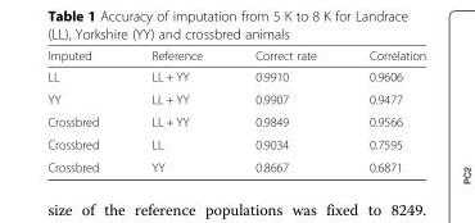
<table><thead><tr><td>Imputed</td><td>Reference</td><td>Correct rate</td><td>Correlation</td></tr></thead><tbody><tr><td>LL</td><td>LL + YY</td><td>0.9910</td><td>0.9606</td></tr><tr><td>YY</td><td>LL + YY</td><td>0.9907</td><td>0.9477</td></tr><tr><td>Crossbred</td><td>LL + YY</td><td>0.9849</td><td>0.9566</td></tr><tr><td>Crossbred</td><td>LL</td><td>0.9034</td><td>0.7595</td></tr><tr><td>Crossbred</td><td>YY</td><td>0.8667</td><td>0.6871</td></tr></tbody></table>